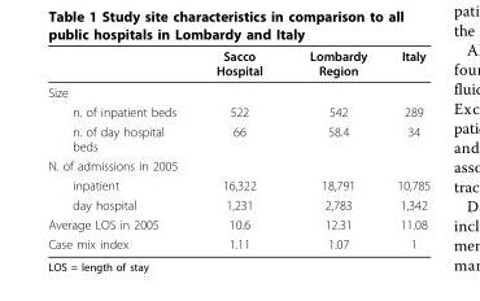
<table><thead><tr><td></td><td>Sacco Hospital</td><td>Lombardy Region</td><td>Italy</td></tr></thead><tbody><tr><td colspan="4">Size</td></tr><tr><td>n. of inpatient beds</td><td>522</td><td>542</td><td>289</td></tr><tr><td>n. of day hospital beds</td><td>66</td><td>58.4</td><td>34</td></tr><tr><td colspan="4">N. of admissions in 2005</td></tr><tr><td>inpatient</td><td>16,322</td><td>18,791</td><td>10,785</td></tr><tr><td>day hospital</td><td>1,231</td><td>2,783</td><td>1,342</td></tr><tr><td>Average LOS in 2005</td><td>10.6</td><td>12.31</td><td>11.08</td></tr><tr><td>Case mix index</td><td>1.11</td><td>1.07</td><td>1</td></tr></tbody></table>